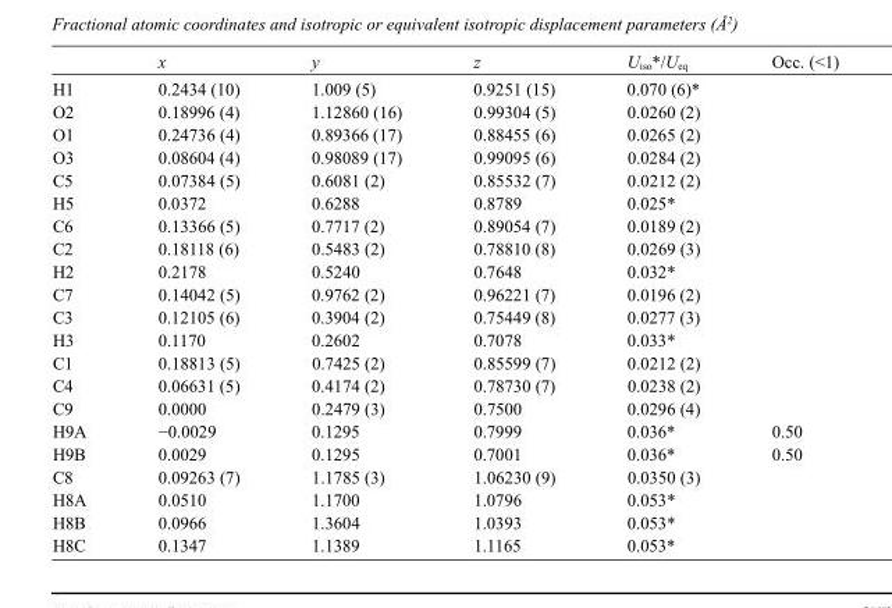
<table><thead><tr><td></td><td>x</td><td>y</td><td>z</td><td>U<sub>iso</sub>*/U<sub>eq</sub></td><td>Occ. (&lt;1)</td></tr></thead><tbody><tr><td>H1</td><td>0.2434 (10)</td><td>1.009 (5)</td><td>0.9251 (15)</td><td>0.070 (6)*</td><td></td></tr><tr><td>O2</td><td>0.18996 (4)</td><td>1.12860 (16)</td><td>0.99304 (5)</td><td>0.0260 (2)</td><td></td></tr><tr><td>O1</td><td>0.24736 (4)</td><td>0.89366 (17)</td><td>0.88455 (6)</td><td>0.0265 (2)</td><td></td></tr><tr><td>O3</td><td>0.08604 (4)</td><td>0.98089 (17)</td><td>0.99095 (6)</td><td>0.0284 (2)</td><td></td></tr><tr><td>C5</td><td>0.07384 (5)</td><td>0.6081 (2)</td><td>0.85532 (7)</td><td>0.0212 (2)</td><td></td></tr><tr><td>H5</td><td>0.0372</td><td>0.6288</td><td>0.8789</td><td>0.025*</td><td></td></tr><tr><td>C6</td><td>0.13366 (5)</td><td>0.7717 (2)</td><td>0.89054 (7)</td><td>0.0189 (2)</td><td></td></tr><tr><td>C2</td><td>0.18118 (6)</td><td>0.5483 (2)</td><td>0.78810 (8)</td><td>0.0269 (3)</td><td></td></tr><tr><td>H2</td><td>0.2178</td><td>0.5240</td><td>0.7648</td><td>0.032*</td><td></td></tr><tr><td>C7</td><td>0.14042 (5)</td><td>0.9762 (2)</td><td>0.96221 (7)</td><td>0.0196 (2)</td><td></td></tr><tr><td>C3</td><td>0.12105 (6)</td><td>0.3904 (2)</td><td>0.75449 (8)</td><td>0.0277 (3)</td><td></td></tr><tr><td>H3</td><td>0.1170</td><td>0.2602</td><td>0.7078</td><td>0.033*</td><td></td></tr><tr><td>C1</td><td>0.18813 (5)</td><td>0.7425 (2)</td><td>0.85599 (7)</td><td>0.0212 (2)</td><td></td></tr><tr><td>C4</td><td>0.06631 (5)</td><td>0.4174 (2)</td><td>0.78730 (7)</td><td>0.0238 (2)</td><td></td></tr><tr><td>C9</td><td>0.0000</td><td>0.2479 (3)</td><td>0.7500</td><td>0.0296 (4)</td><td></td></tr><tr><td>H9A</td><td>−0.0029</td><td>0.1295</td><td>0.7999</td><td>0.036*</td><td>0.50</td></tr><tr><td>H9B</td><td>0.0029</td><td>0.1295</td><td>0.7001</td><td>0.036*</td><td>0.50</td></tr><tr><td>C8</td><td>0.09263 (7)</td><td>1.1785 (3)</td><td>1.06230 (9)</td><td>0.0350 (3)</td><td></td></tr><tr><td>H8A</td><td>0.0510</td><td>1.1700</td><td>1.0796</td><td>0.053*</td><td></td></tr><tr><td>H8B</td><td>0.0966</td><td>1.3604</td><td>1.0393</td><td>0.053*</td><td></td></tr><tr><td>H8C</td><td>0.1347</td><td>1.1389</td><td>1.1165</td><td>0.053*</td><td></td></tr></tbody></table>